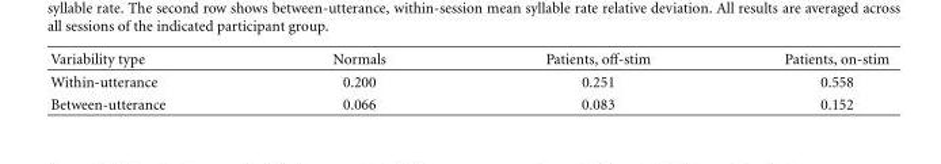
<table><thead><tr><td>Variability type</td><td>Normals</td><td>Patients, off-stim</td><td>Patients, on-stim</td></tr></thead><tbody><tr><td>Within-utterance</td><td>0.200</td><td>0.251</td><td>0.558</td></tr><tr><td>Between-utterance</td><td>0.066</td><td>0.083</td><td>0.152</td></tr></tbody></table>